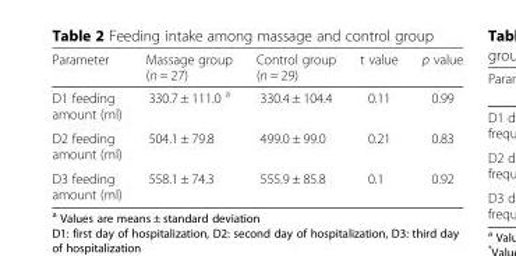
<table><thead><tr><td>Parameter</td><td>Massage group (n = 27)</td><td>Control group (n = 29)</td><td>t value</td><td>p value</td></tr></thead><tbody><tr><td>D1 feeding amount (ml)</td><td>330.7 ± 111.0 <sup>a</sup></td><td>330.4 ± 104.4</td><td>0.11</td><td>0.99</td></tr><tr><td>D2 feeding amount (ml)</td><td>504.1 ± 79.8</td><td>499.0 ± 99.0</td><td>0.21</td><td>0.83</td></tr><tr><td>D3 feeding amount (ml)</td><td>558.1 ± 74.3</td><td>555.9 ± 85.8</td><td>0.1</td><td>0.92</td></tr></tbody></table>